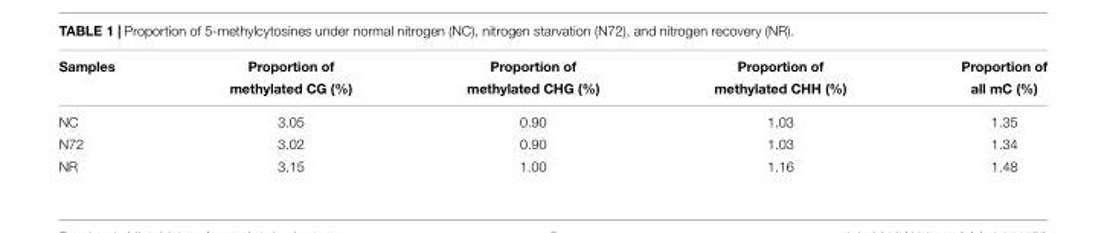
<table><thead><tr><td rowspan="2">Samples</td><td rowspan="2">Proportion of methylated CG (%)</td><td rowspan="2">Proportion of methylated CHG (%)</td><td rowspan="2">Proportion of methylated CHH (%)</td><td rowspan="2">Proportion of all mC (%)</td></tr><tr></tr></thead><tbody><tr><td>NC</td><td>3.05</td><td>0.90</td><td>1.03</td><td>1.35</td></tr><tr><td>N72</td><td>3.02</td><td>0.90</td><td>1.03</td><td>1.34</td></tr><tr><td>NR</td><td>3.15</td><td>1.00</td><td>1.16</td><td>1.48</td></tr></tbody></table>